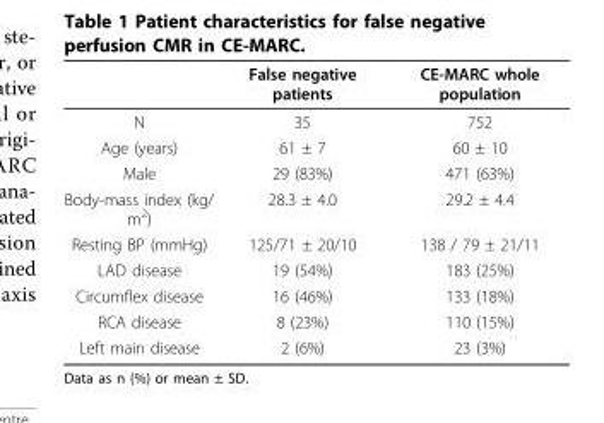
<table><thead><tr><td></td><td>False negative patients</td><td>CE-MARC whole population</td></tr></thead><tbody><tr><td>N</td><td>35</td><td>752</td></tr><tr><td>Age (years)</td><td>61 ± 7</td><td>60 ± 10</td></tr><tr><td>Male</td><td>29 (83%)</td><td>471 (63%)</td></tr><tr><td>Body-mass index (kg/ m<sup>2</sup>)</td><td>28.3 ± 4.0</td><td>29.2 ± 4.4</td></tr><tr><td>Resting BP (mmHg)</td><td>125/71 ± 20/10</td><td>138 / 79 ± 21/11</td></tr><tr><td>LAD disease</td><td>19 (54%)</td><td>183 (25%)</td></tr><tr><td>Circumflex disease</td><td>16 (46%)</td><td>133 (18%)</td></tr><tr><td>RCA disease</td><td>8 (23%)</td><td>110 (15%)</td></tr><tr><td>Left main disease</td><td>2 (6%)</td><td>23 (3%)</td></tr></tbody></table>